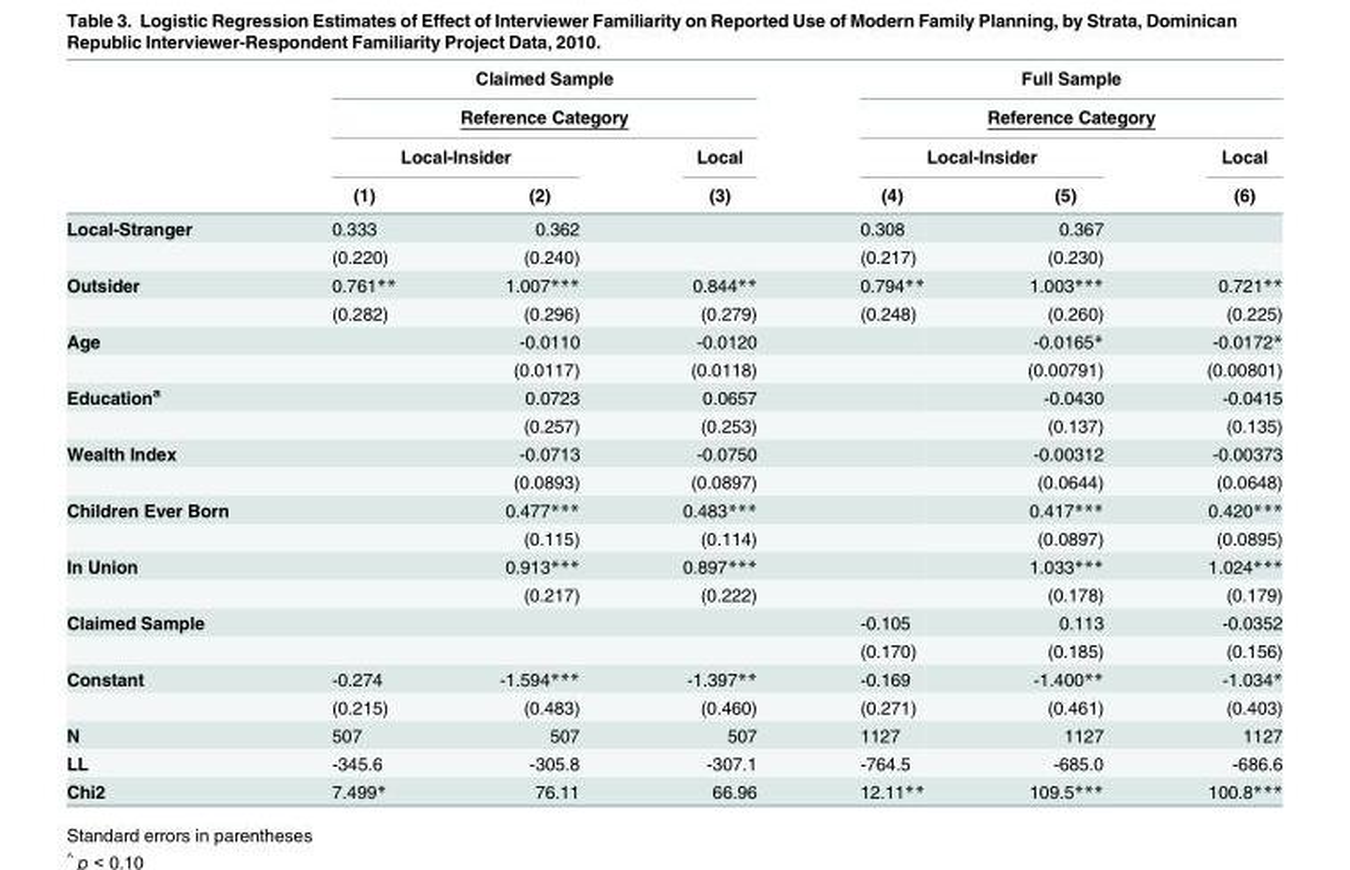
<table><thead><tr><td rowspan="4"></td><td rowspan="2" colspan="3">Claimed Sample Reference Category</td><td rowspan="2" colspan="3">Full Sample Reference Category</td></tr><tr></tr><tr><td colspan="2">Local-Insider</td><td rowspan="2">Local (3)</td><td colspan="2">Local-Insider</td><td rowspan="2">Local (6)</td></tr><tr><td>(1)</td><td>(2)</td><td>(4)</td><td>(5)</td></tr></thead><tbody><tr><td rowspan="2">Local-Stranger</td><td>0.333</td><td>0.362</td><td></td><td>0.308</td><td>0.367</td><td></td></tr><tr><td>(0.220)</td><td>(0.240)</td><td></td><td>(0.217)</td><td>(0.230)</td><td></td></tr><tr><td rowspan="2">Outsider</td><td>0.761**</td><td>1.007***</td><td>0.844**</td><td>0.794**</td><td>1.003***</td><td>0.721**</td></tr><tr><td>(0.282)</td><td>(0.296)</td><td>(0.279)</td><td>(0.248)</td><td>(0.260)</td><td>(0.225)</td></tr><tr><td rowspan="2">Age</td><td></td><td>-0.0110</td><td>-0.0120</td><td></td><td>-0.0165*</td><td>-0.0172*</td></tr><tr><td></td><td>(0.0117)</td><td>(0.0118)</td><td></td><td>(0.00791)</td><td>(0.00801)</td></tr><tr><td rowspan="2">Education<sup>a</sup></td><td></td><td>0.0723</td><td>0.0657</td><td></td><td>-0.0430</td><td>-0.0415</td></tr><tr><td></td><td>(0.257)</td><td>(0.253)</td><td></td><td>(0.137)</td><td>(0.135)</td></tr><tr><td rowspan="2">Wealth Index</td><td></td><td>-0.0713</td><td>-0.0750</td><td></td><td>-0.00312</td><td>-0.00373</td></tr><tr><td></td><td>(0.0893)</td><td>(0.0897)</td><td></td><td>(0.0644)</td><td>(0.0648)</td></tr><tr><td rowspan="2">Children Ever Born</td><td></td><td>0.477***</td><td>0.483***</td><td></td><td>0.417***</td><td>0.420***</td></tr><tr><td></td><td>(0.115)</td><td>(0.114)</td><td></td><td>(0.0897)</td><td>(0.0895)</td></tr><tr><td rowspan="2">In Union</td><td></td><td>0.913***</td><td>0.897***</td><td></td><td>1.033***</td><td>1.024***</td></tr><tr><td></td><td>(0.217)</td><td>(0.222)</td><td></td><td>(0.178)</td><td>(0.179)</td></tr><tr><td rowspan="2">Claimed Sample</td><td></td><td></td><td></td><td>-0.105</td><td>0.113</td><td>-0.0352</td></tr><tr><td></td><td></td><td></td><td>(0.170)</td><td>(0.185)</td><td>(0.156)</td></tr><tr><td rowspan="2">Constant</td><td>-0.274</td><td>-1.594***</td><td>-1.397**</td><td>-0.169</td><td>-1.400**</td><td>-1.034*</td></tr><tr><td>(0.215)</td><td>(0.483)</td><td>(0.460)</td><td>(0.271)</td><td>(0.461)</td><td>(0.403)</td></tr><tr><td>N</td><td>507</td><td>507</td><td>507</td><td>1127</td><td>1127</td><td>1127</td></tr><tr><td>LL</td><td>-345.6</td><td>-305.8</td><td>-307.1</td><td>-764.5</td><td>-685.0</td><td>-686.6</td></tr><tr><td>Chi2</td><td>7.499*</td><td>76.11</td><td>66.96</td><td>12.11**</td><td>109.5***</td><td>100.8***</td></tr></tbody></table>